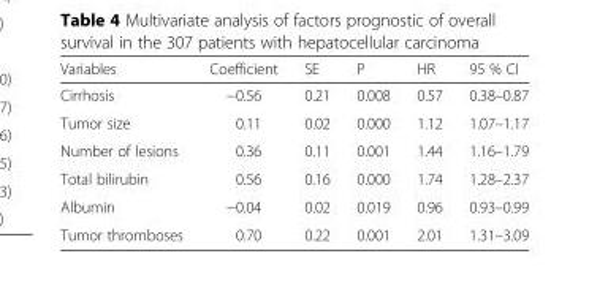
<table><thead><tr><td>Variables</td><td>Coefficient</td><td>SE</td><td>P</td><td>HR</td><td>95 % CI</td></tr></thead><tbody><tr><td>Cirrhosis</td><td>−0.56</td><td>0.21</td><td>0.008</td><td>0.57</td><td>0.38–0.87</td></tr><tr><td>Tumor size</td><td>0.11</td><td>0.02</td><td>0.000</td><td>1.12</td><td>1.07–1.17</td></tr><tr><td>Number of lesions</td><td>0.36</td><td>0.11</td><td>0.001</td><td>1.44</td><td>1.16–1.79</td></tr><tr><td>Total bilirubin</td><td>0.56</td><td>0.16</td><td>0.000</td><td>1.74</td><td>1.28–2.37</td></tr><tr><td>Albumin</td><td>−0.04</td><td>0.02</td><td>0.019</td><td>0.96</td><td>0.93–0.99</td></tr><tr><td>Tumor thromboses</td><td>0.70</td><td>0.22</td><td>0.001</td><td>2.01</td><td>1.31–3.09</td></tr></tbody></table>